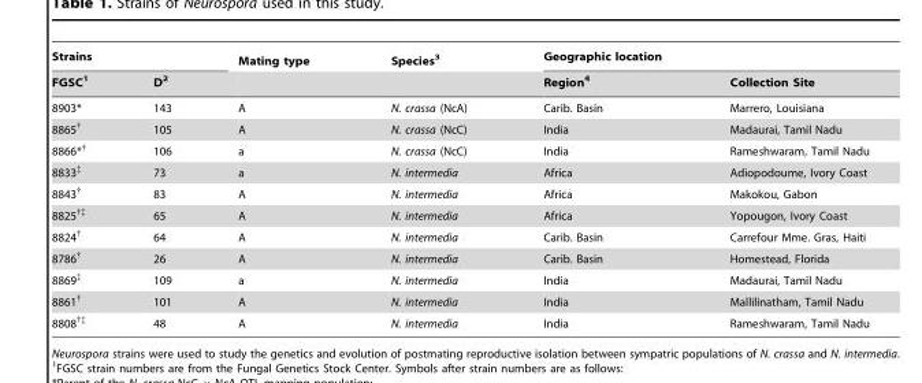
<table><thead><tr><td colspan="2">Strains</td><td rowspan="2">Mating type</td><td rowspan="2">Species<sup>3</sup></td><td colspan="2">Geographic location</td></tr><tr><td>FGSC<sup>1</sup></td><td>D<sup>2</sup></td><td>Region<sup>4</sup></td><td>Collection Site</td></tr></thead><tbody><tr><td>8903*</td><td>143</td><td>A</td><td>N. crassa (NcA)</td><td>Carib. Basin</td><td>Marrero, Louisiana</td></tr><tr><td>8865†</td><td>105</td><td>A</td><td>N. crassa (NcC)</td><td>India</td><td>Madaurai, Tamil Nadu</td></tr><tr><td>8866*†</td><td>106</td><td>a</td><td>N. crassa (NcC)</td><td>India</td><td>Rameshwaram, Tamil Nadu</td></tr><tr><td>8833‡</td><td>73</td><td>a</td><td>N. intermedia</td><td>Africa</td><td>Adiopodoume, Ivory Coast</td></tr><tr><td>8843†</td><td>83</td><td>A</td><td>N. intermedia</td><td>Africa</td><td>Makokou, Gabon</td></tr><tr><td>8825†‡</td><td>65</td><td>A</td><td>N. intermedia</td><td>Africa</td><td>Yopougon, Ivory Coast</td></tr><tr><td>8824†</td><td>64</td><td>A</td><td>N. intermedia</td><td>Carib. Basin</td><td>Carrefour Mme. Gras, Haiti</td></tr><tr><td>8786†</td><td>26</td><td>A</td><td>N. intermedia</td><td>Carib. Basin</td><td>Homestead, Florida</td></tr><tr><td>8869‡</td><td>109</td><td>a</td><td>N. intermedia</td><td>India</td><td>Madaurai, Tamil Nadu</td></tr><tr><td>8861†</td><td>101</td><td>A</td><td>N. intermedia</td><td>India</td><td>Mallilinatham, Tamil Nadu</td></tr><tr><td>8808†‡</td><td>48</td><td>A</td><td>N. intermedia</td><td>India</td><td>Rameshwaram, Tamil Nadu</td></tr></tbody></table>